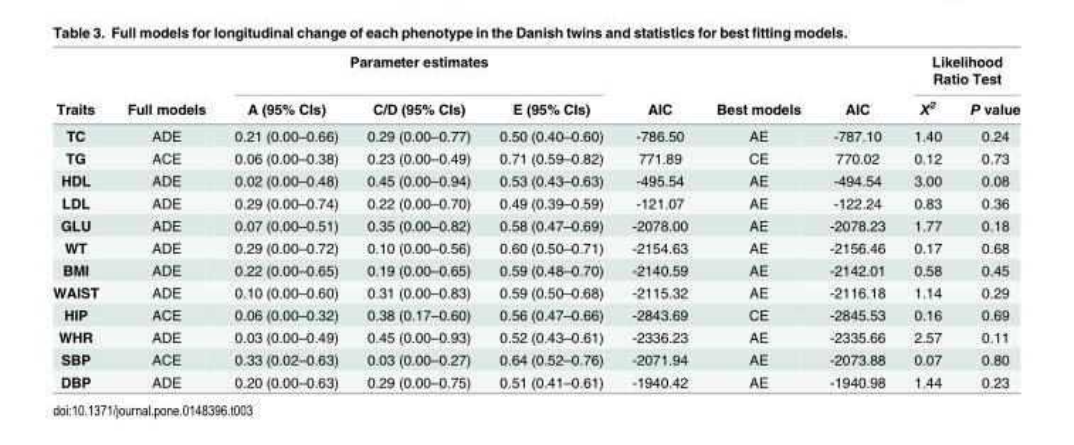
<table><thead><tr><td rowspan="2">Traits</td><td rowspan="2">Full models</td><td colspan="3">Parameter estimates</td><td rowspan="2">AIC</td><td rowspan="2">Best models</td><td rowspan="2">AIC</td><td colspan="2">Likelihood Ratio Test</td></tr><tr><td>A (95% CIs)</td><td>C/D (95% CIs)</td><td>E (95% CIs)</td><td>X<sup>2</sup></td><td>P value</td></tr></thead><tbody><tr><td>TC</td><td>ADE</td><td>0.21 (0.00–0.66)</td><td>0.29 (0.00–0.77)</td><td>0.50 (0.40–0.60)</td><td>-786.50</td><td>AE</td><td>-787.10</td><td>1.40</td><td>0.24</td></tr><tr><td>TG</td><td>ACE</td><td>0.06 (0.00–0.38)</td><td>0.23 (0.00–0.49)</td><td>0.71 (0.59–0.82)</td><td>771.89</td><td>CE</td><td>770.02</td><td>0.12</td><td>0.73</td></tr><tr><td>HDL</td><td>ADE</td><td>0.02 (0.00–0.48)</td><td>0.45 (0.00–0.94)</td><td>0.53 (0.43–0.63)</td><td>-495.54</td><td>AE</td><td>-494.54</td><td>3.00</td><td>0.08</td></tr><tr><td>LDL</td><td>ADE</td><td>0.29 (0.00–0.74)</td><td>0.22 (0.00–0.70)</td><td>0.49 (0.39–0.59)</td><td>-121.07</td><td>AE</td><td>-122.24</td><td>0.83</td><td>0.36</td></tr><tr><td>GLU</td><td>ADE</td><td>0.07 (0.00–0.51)</td><td>0.35 (0.00–0.82)</td><td>0.58 (0.47–0.69)</td><td>-2078.00</td><td>AE</td><td>-2078.23</td><td>1.77</td><td>0.18</td></tr><tr><td>WT</td><td>ADE</td><td>0.29 (0.00–0.72)</td><td>0.10 (0.00–0.56)</td><td>0.60 (0.50–0.71)</td><td>-2154.63</td><td>AE</td><td>-2156.46</td><td>0.17</td><td>0.68</td></tr><tr><td>BMI</td><td>ADE</td><td>0.22 (0.00–0.65)</td><td>0.19 (0.00–0.65)</td><td>0.59 (0.48–0.70)</td><td>-2140.59</td><td>AE</td><td>-2142.01</td><td>0.58</td><td>0.45</td></tr><tr><td>WAIST</td><td>ADE</td><td>0.10 (0.00–0.60)</td><td>0.31 (0.00–0.83)</td><td>0.59 (0.50–0.68)</td><td>-2115.32</td><td>AE</td><td>-2116.18</td><td>1.14</td><td>0.29</td></tr><tr><td>HIP</td><td>ACE</td><td>0.06 (0.00–0.32)</td><td>0.38 (0.17–0.60)</td><td>0.56 (0.47–0.66)</td><td>-2843.69</td><td>CE</td><td>-2845.53</td><td>0.16</td><td>0.69</td></tr><tr><td>WHR</td><td>ADE</td><td>0.03 (0.00–0.49)</td><td>0.45 (0.00–0.93)</td><td>0.52 (0.43–0.61)</td><td>-2336.23</td><td>AE</td><td>-2335.66</td><td>2.57</td><td>0.11</td></tr><tr><td>SBP</td><td>ACE</td><td>0.33 (0.02–0.63)</td><td>0.03 (0.00–0.27)</td><td>0.64 (0.52–0.76)</td><td>-2071.94</td><td>AE</td><td>-2073.88</td><td>0.07</td><td>0.80</td></tr><tr><td>DBP</td><td>ADE</td><td>0.20 (0.00–0.63)</td><td>0.29 (0.00–0.75)</td><td>0.51 (0.41–0.61)</td><td>-1940.42</td><td>AE</td><td>-1940.98</td><td>1.44</td><td>0.23</td></tr></tbody></table>